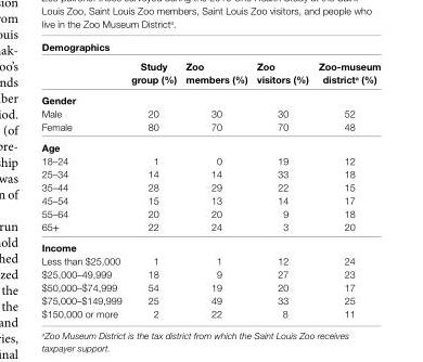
<table><thead><tr><td colspan="5">Demographics</td></tr><tr><td></td><td>study group (%)</td><td>Zoo members (%)</td><td>Zoo visitors (%)</td><td>Zoo-museum district<sup>a</sup> (%)</td></tr></thead><tbody><tr><td colspan="5">gender</td></tr><tr><td>Male</td><td>20</td><td>30</td><td>30</td><td>52</td></tr><tr><td>Female</td><td>80</td><td>70</td><td>70</td><td>48</td></tr><tr><td colspan="5">age</td></tr><tr><td>18–24</td><td>1</td><td>0</td><td>19</td><td>12</td></tr><tr><td>25–34</td><td>14</td><td>14</td><td>33</td><td>18</td></tr><tr><td>35–44</td><td>28</td><td>29</td><td>22</td><td>15</td></tr><tr><td>45–54</td><td>15</td><td>13</td><td>14</td><td>17</td></tr><tr><td>55–64</td><td>20</td><td>20</td><td>9</td><td>18</td></tr><tr><td>65+</td><td>22</td><td>24</td><td>3</td><td>20</td></tr><tr><td colspan="5">income</td></tr><tr><td>Less than $25,000</td><td>1</td><td>1</td><td>12</td><td>24</td></tr><tr><td>$25,000–49,999</td><td>18</td><td>9</td><td>27</td><td>23</td></tr><tr><td>$50,000–$74,999</td><td>54</td><td>19</td><td>20</td><td>17</td></tr><tr><td>$75,000–$149,999</td><td>25</td><td>49</td><td>33</td><td>25</td></tr><tr><td>$150,000 or more</td><td>2</td><td>22</td><td>8</td><td>11</td></tr></tbody></table>